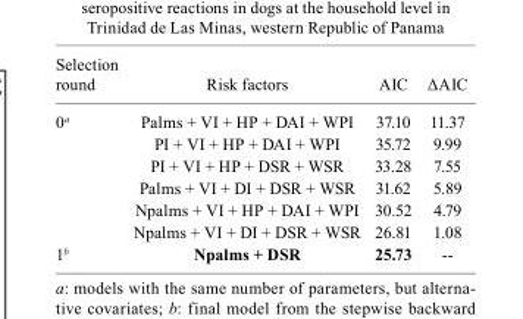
<table><thead><tr><td>Selection round</td><td>Risk factors</td><td>AIC</td><td>ΔAIC</td></tr></thead><tbody><tr><td rowspan="6">0<sup>a</sup></td><td>Palms + VI + HP + DAI + WPI</td><td>37.10</td><td>11.37</td></tr><tr><td>PI + VI + HP + DAI + WPI</td><td>35.72</td><td>9.99</td></tr><tr><td>PI + VI + HP + DSR + WSR</td><td>33.28</td><td>7.55</td></tr><tr><td>Palms + VI + DI + DSR + WSR</td><td>31.62</td><td>5.89</td></tr><tr><td>Npalms + VI + HP + DAI + WPI</td><td>30.52</td><td>4.79</td></tr><tr><td>Npalms + VI + DI + DSR + WSR</td><td>26.81</td><td>1.08</td></tr><tr><td>1<sup>b</sup></td><td>Npalms + DSR</td><td>25.73</td><td>--</td></tr></tbody></table>